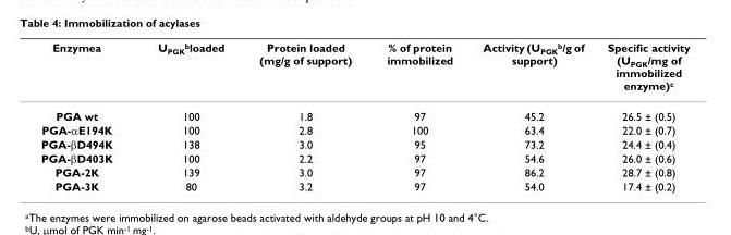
<table><thead><tr><td>Enzymea</td><td>U<sub>PGK</sub><sup>b</sup>loaded</td><td>Protein loaded (mg/g of support)</td><td>% of protein immobilized</td><td>Activity (U<sub>PGK</sub><sup>b</sup>/g of support)</td><td>Specific activity (U<sub>PGK</sub>/mg of immobilized enzyme)<sup>c</sup></td></tr></thead><tbody><tr><td>PGA wt</td><td>100</td><td>1.8</td><td>97</td><td>45.2</td><td>26.5 ± (0.5)</td></tr><tr><td>PGA-αE194K</td><td>100</td><td>2.8</td><td>100</td><td>63.4</td><td>22.0 ± (0.7)</td></tr><tr><td>PGA-βD494K</td><td>138</td><td>3.0</td><td>95</td><td>73.2</td><td>24.4 ± (0.4)</td></tr><tr><td>PGA-βD403K</td><td>100</td><td>2.2</td><td>97</td><td>54.6</td><td>26.0 ± (0.6)</td></tr><tr><td>PGA-2K</td><td>139</td><td>3.0</td><td>97</td><td>86.2</td><td>28.7 ± (0.8)</td></tr><tr><td>PGA-3K</td><td>80</td><td>3.2</td><td>97</td><td>54.0</td><td>17.4 ± (0.2)</td></tr></tbody></table>